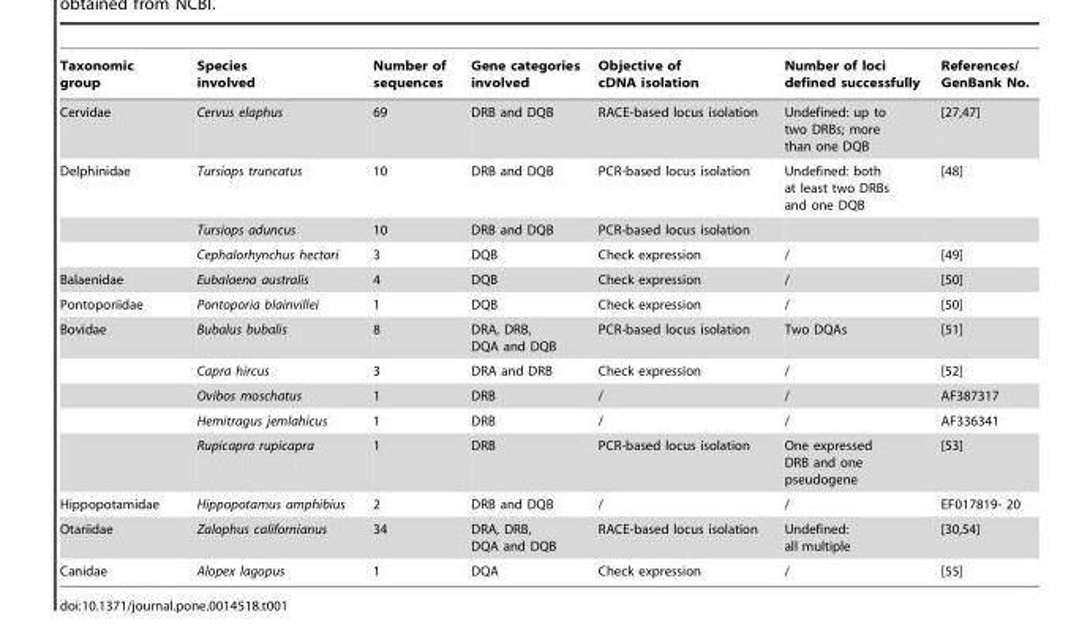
<table><thead><tr><td>Taxonomic group</td><td>Species involved</td><td>Number of sequences</td><td>Gene categories involved</td><td>Objective of cDNA isolation</td><td>Number of loci defined successfully</td><td>References/ GenBank No.</td></tr></thead><tbody><tr><td>Cervidae</td><td>Cervus elaphus</td><td>69</td><td>DRB and DQB</td><td>RACE-based locus isolation</td><td>Undefined: up to two DRBs; more than one DQB</td><td>[27,47]</td></tr><tr><td rowspan="3">Delphinidae</td><td>Tursiops truncatus</td><td>10</td><td>DRB and DQB</td><td>PCR-based locus isolation</td><td>Undefined: both at least two DRBs and one DQB</td><td>[48]</td></tr><tr><td>Tursiops aduncus</td><td>10</td><td>DRB and DQB</td><td>PCR-based locus isolation</td><td></td><td></td></tr><tr><td>Cephalorhynchus hectori</td><td>3</td><td>DQB</td><td>Check expression</td><td>/</td><td>[49]</td></tr><tr><td>Balaenidae</td><td>Eubalaena australis</td><td>4</td><td>DQB</td><td>Check expression</td><td>/</td><td>[50]</td></tr><tr><td>Pontoporiidae</td><td>Pontoporia blainvillei</td><td>1</td><td>DQB</td><td>Check expression</td><td>/</td><td>[50]</td></tr><tr><td rowspan="5">Bovidae</td><td>Bubalus bubalis</td><td>8</td><td>DRA, DRB, DQA and DQB</td><td>PCR-based locus isolation</td><td>Two DQAs</td><td>[51]</td></tr><tr><td>Capra hircus</td><td>3</td><td>DRA and DRB</td><td>Check expression</td><td>/</td><td>[52]</td></tr><tr><td>Ovibos moschatus</td><td>1</td><td>DRB</td><td>/</td><td>/</td><td>AF387317</td></tr><tr><td>Hemitragus jemlahicus</td><td>1</td><td>DRB</td><td>/</td><td>/</td><td>AF336341</td></tr><tr><td>Rupicapra rupicapra</td><td>1</td><td>DRB</td><td>PCR-based locus isolation</td><td>One expressed DRB and one pseudogene</td><td>[53]</td></tr><tr><td>Hippopotamidae</td><td>Hippopotamus amphibius</td><td>2</td><td>DRB and DQB</td><td>/</td><td>/</td><td>EF017819- 20</td></tr><tr><td>Otariidae</td><td>Zalophus californianus</td><td>34</td><td>DRA, DRB, DQA and DQB</td><td>RACE-based locus isolation</td><td>Undefined: all multiple</td><td>[30,54]</td></tr><tr><td>Canidae</td><td>Alopex lagopus</td><td>1</td><td>DQA</td><td>Check expression</td><td>/</td><td>[55]</td></tr></tbody></table>